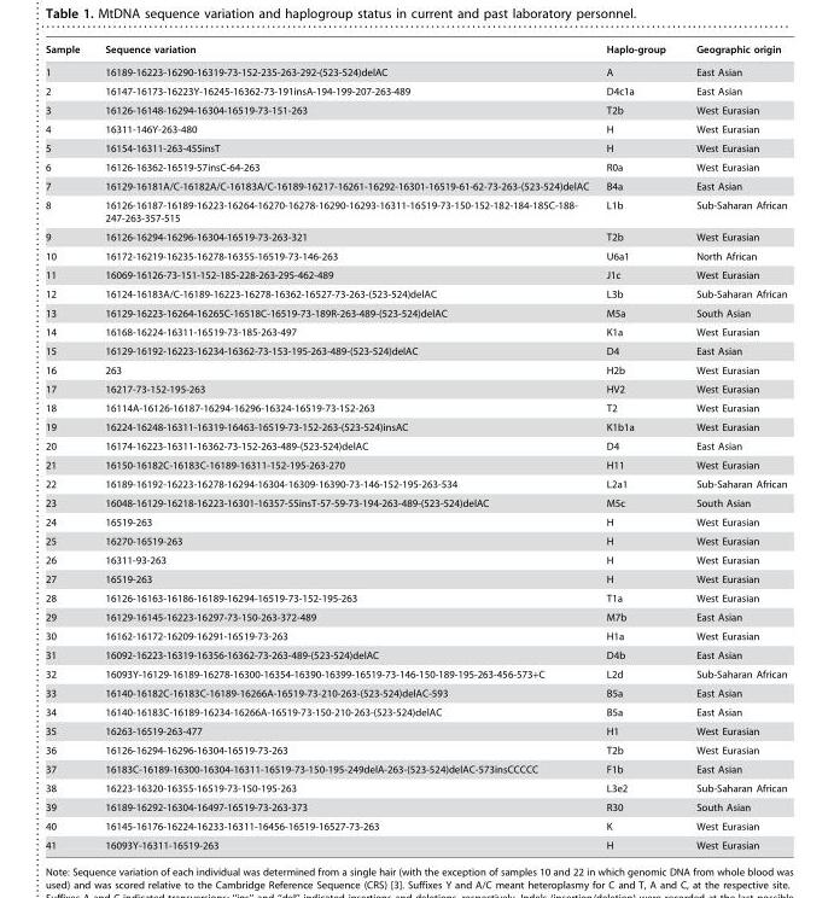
<table><thead><tr><td>Sample</td><td>Sequence variation</td><td>Haplo-group</td><td>Geographic origin</td></tr></thead><tbody><tr><td>1</td><td>16189-16223-16290-16319-73-152-235-263-292-(523-524)delAC</td><td>A</td><td>East Asian</td></tr><tr><td>2</td><td>16147-16173-16223Y-16245-16362-73-191insA-194-199-207-263-489</td><td>D4c1a</td><td>East Asian</td></tr><tr><td>3</td><td>16126-16148-16294-16304-16519-73-151-263</td><td>T2b</td><td>West Eurasian</td></tr><tr><td>4</td><td>16311-146Y-263-480</td><td>H</td><td>West Eurasian</td></tr><tr><td>5</td><td>16154-16311-263-455insT</td><td>H</td><td>West Eurasian</td></tr><tr><td>6</td><td>16126-16362-16519-57insC-64-263</td><td>R0a</td><td>West Eurasian</td></tr><tr><td>7</td><td>16129-16181A/C-16182A/C-16183A/C-16189-16217-16261-16292-16301-16519-61-62-73-263-(523-524)delAC</td><td>B4a</td><td>East Asian</td></tr><tr><td>8</td><td>16126-16187-16189-16223-16264-16270-16278-16290-16293-16311-16519-73-150-152-182-184-185C-188- 247-263-357-515</td><td>L1b</td><td>Sub-Saharan African</td></tr><tr><td>9</td><td>16126-16294-16296-16304-16519-73-263-321</td><td>T2b</td><td>West Eurasian</td></tr><tr><td>10</td><td>16172-16219-16235-16278-16355-16519-73-146-263</td><td>U6a1</td><td>North African</td></tr><tr><td>11</td><td>16069-16126-73-151-152-185-228-263-295-462-489</td><td>J1c</td><td>West Eurasian</td></tr><tr><td>12</td><td>16124-16183A/C-16189-16223-16278-16362-16527-73-263-(523-524)delAC</td><td>L3b</td><td>Sub-Saharan African</td></tr><tr><td>13</td><td>16129-16223-16264-16265C-16518C-16519-73-189R-263-489-(523-524)delAC</td><td>M5a</td><td>South Asian</td></tr><tr><td>14</td><td>16168-16224-16311-16519-73-185-263-497</td><td>K1a</td><td>West Eurasian</td></tr><tr><td>15</td><td>16129-16192-16223-16234-16362-73-153-195-263-489-(523-524)delAC</td><td>D4</td><td>East Asian</td></tr><tr><td>16</td><td>263</td><td>H2b</td><td>West Eurasian</td></tr><tr><td>17</td><td>16217-73-152-195-263</td><td>HV2</td><td>West Eurasian</td></tr><tr><td>18</td><td>16114A-16126-16187-16294-16296-16324-16519-73-152-263</td><td>T2</td><td>West Eurasian</td></tr><tr><td>19</td><td>16224-16248-16311-16319-16463-16519-73-152-263-(523-524)insAC</td><td>K1b1a</td><td>West Eurasian</td></tr><tr><td>20</td><td>16174-16223-16311-16362-73-152-263-489-(523-524)delAC</td><td>D4</td><td>East Asian</td></tr><tr><td>21</td><td>16150-16182C-16183C-16189-16311-152-195-263-270</td><td>H11</td><td>West Eurasian</td></tr><tr><td>22</td><td>16189-16192-16223-16278-16294-16304-16309-16390-73-146-152-195-263-534</td><td>L2a1</td><td>Sub-Saharan African</td></tr><tr><td>23</td><td>16048-16129-16218-16223-16301-16357-55insT-57-59-73-194-263-489-(523-524)delAC</td><td>M5c</td><td>South Asian</td></tr><tr><td>24</td><td>16519-263</td><td>H</td><td>West Eurasian</td></tr><tr><td>25</td><td>16270-16519-263</td><td>H</td><td>West Eurasian</td></tr><tr><td>26</td><td>16311-93-263</td><td>H</td><td>West Eurasian</td></tr><tr><td>27</td><td>16519-263</td><td>H</td><td>West Eurasian</td></tr><tr><td>28</td><td>16126-16163-16186-16189-16294-16519-73-152-195-263</td><td>T1a</td><td>West Eurasian</td></tr><tr><td>29</td><td>16129-16145-16223-16297-73-150-263-372-489</td><td>M7b</td><td>East Asian</td></tr><tr><td>30</td><td>16162-16172-16209-16291-16519-73-263</td><td>H1a</td><td>West Eurasian</td></tr><tr><td>31</td><td>16092-16223-16319-16356-16362-73-263-489-(523-524)delAC</td><td>D4b</td><td>East Asian</td></tr><tr><td>32</td><td>16093Y-16129-16189-16278-16300-16354-16390-16399-16519-73-146-150-189-195-263-456-573+C</td><td>L2d</td><td>Sub-Saharan African</td></tr><tr><td>33</td><td>16140-16182C-16183C-16189-16266A-16519-73-210-263-(523-524)delAC-593</td><td>B5a</td><td>East Asian</td></tr><tr><td>34</td><td>16140-16183C-16189-16234-16266A-16519-73-150-210-263-(523-524)delAC</td><td>B5a</td><td>East Asian</td></tr><tr><td>35</td><td>16263-16519-263-477</td><td>H1</td><td>West Eurasian</td></tr><tr><td>36</td><td>16126-16294-16296-16304-16519-73-263</td><td>T2b</td><td>West Eurasian</td></tr><tr><td>37</td><td>16183C-16189-16300-16304-16311-16519-73-150-195-249delA-263-(523-524)delAC-573insCCCCC</td><td>F1b</td><td>East Asian</td></tr><tr><td>38</td><td>16223-16320-16355-16519-73-150-195-263</td><td>L3e2</td><td>Sub-Saharan African</td></tr><tr><td>39</td><td>16189-16292-16304-16497-16519-73-263-373</td><td>R30</td><td>South Asian</td></tr><tr><td>40</td><td>16145-16176-16224-16233-16311-16456-16519-16527-73-263</td><td>K</td><td>West Eurasian</td></tr><tr><td>41</td><td>16093Y-16311-16519-263</td><td>H</td><td>West Eurasian</td></tr></tbody></table>